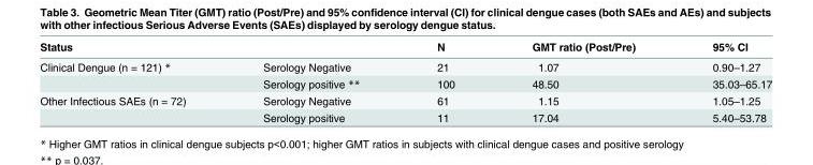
<table><thead><tr><td>Status</td><td></td><td>N</td><td>GMT ratio (Post/Pre)</td><td>95% CI</td></tr></thead><tbody><tr><td rowspan="2">Clinical Dengue (n = 121) *</td><td>Serology Negative</td><td>21</td><td>1.07</td><td>0.90–1.27</td></tr><tr><td>Serology positive **</td><td>100</td><td>48.50</td><td>35.03–65.17</td></tr><tr><td rowspan="2">Other Infectious SAEs (n = 72)</td><td>Serology Negative</td><td>61</td><td>1.15</td><td>1.05–1.25</td></tr><tr><td>Serology positive</td><td>11</td><td>17.04</td><td>5.40–53.78</td></tr></tbody></table>